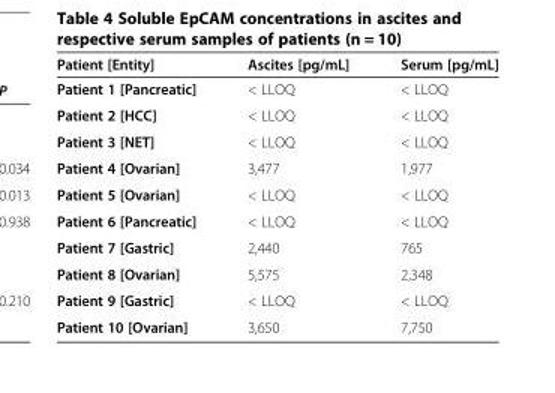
<table><thead><tr><td>Patient [Entity]</td><td>Ascites [pg/mL]</td><td>Serum [pg/mL]</td></tr></thead><tbody><tr><td>Patient 1 [Pancreatic]</td><td>&lt; LLOQ</td><td>&lt; LLOQ</td></tr><tr><td>Patient 2 [HCC]</td><td>&lt; LLOQ</td><td>&lt; LLOQ</td></tr><tr><td>Patient 3 [NET]</td><td>&lt; LLOQ</td><td>&lt; LLOQ</td></tr><tr><td>Patient 4 [Ovarian]</td><td>3,477</td><td>1,977</td></tr><tr><td>Patient 5 [Ovarian]</td><td>&lt; LLOQ</td><td>&lt; LLOQ</td></tr><tr><td>Patient 6 [Pancreatic]</td><td>&lt; LLOQ</td><td>&lt; LLOQ</td></tr><tr><td>Patient 7 [Gastric]</td><td>2,440</td><td>765</td></tr><tr><td>Patient 8 [Ovarian]</td><td>5,575</td><td>2,348</td></tr><tr><td>Patient 9 [Gastric]</td><td>&lt; LLOQ</td><td>&lt; LLOQ</td></tr><tr><td>Patient 10 [Ovarian]</td><td>3,650</td><td>7,750</td></tr></tbody></table>